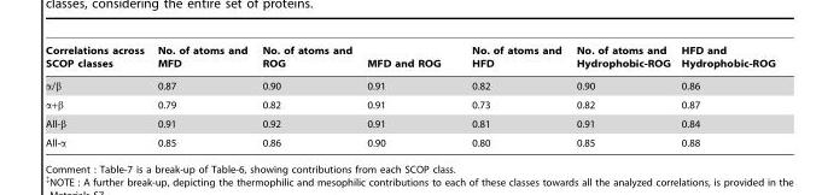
<table><thead><tr><td>Correlations across SCOP classes</td><td>No. of atoms and MFD</td><td>No. of atoms and ROG</td><td>MFD and ROG</td><td>No. of atoms and HFD</td><td>No. of atoms and Hydrophobic-ROG</td><td>HFD and Hydrophobic-ROG</td></tr></thead><tbody><tr><td>α/β</td><td>0.87</td><td>0.90</td><td>0.91</td><td>0.82</td><td>0.90</td><td>0.86</td></tr><tr><td>α+β</td><td>0.79</td><td>0.82</td><td>0.91</td><td>0.73</td><td>0.82</td><td>0.87</td></tr><tr><td>All-β</td><td>0.91</td><td>0.92</td><td>0.91</td><td>0.81</td><td>0.91</td><td>0.84</td></tr><tr><td>All-α</td><td>0.85</td><td>0.86</td><td>0.90</td><td>0.80</td><td>0.85</td><td>0.88</td></tr></tbody></table>